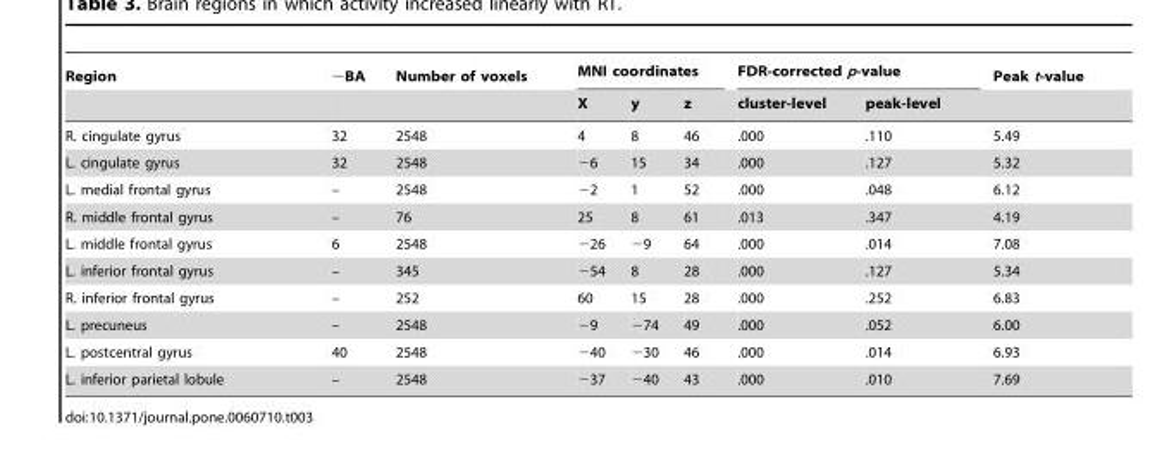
<table><thead><tr><td rowspan="2">Region</td><td rowspan="2">∼BA</td><td rowspan="2">Number of voxels</td><td colspan="3">MNI coordinates</td><td colspan="2">FDR-corrected p-value</td><td rowspan="2">Peak t-value</td></tr><tr><td>X</td><td>y</td><td>z</td><td>cluster-level</td><td>peak-level</td></tr></thead><tbody><tr><td>R. cingulate gyrus</td><td>32</td><td>2548</td><td>4</td><td>8</td><td>46</td><td>.000</td><td>.110</td><td>5.49</td></tr><tr><td>L. cingulate gyrus</td><td>32</td><td>2548</td><td>−6</td><td>15</td><td>34</td><td>.000</td><td>.127</td><td>5.32</td></tr><tr><td>L. medial frontal gyrus</td><td>–</td><td>2548</td><td>−2</td><td>1</td><td>52</td><td>.000</td><td>.048</td><td>6.12</td></tr><tr><td>R. middle frontal gyrus</td><td>–</td><td>76</td><td>25</td><td>8</td><td>61</td><td>.013</td><td>.347</td><td>4.19</td></tr><tr><td>L. middle frontal gyrus</td><td>6</td><td>2548</td><td>−26</td><td>−9</td><td>64</td><td>.000</td><td>.014</td><td>7.08</td></tr><tr><td>L. inferior frontal gyrus</td><td>–</td><td>345</td><td>−54</td><td>8</td><td>28</td><td>.000</td><td>.127</td><td>5.34</td></tr><tr><td>R. inferior frontal gyrus</td><td>–</td><td>252</td><td>60</td><td>15</td><td>28</td><td>.000</td><td>.252</td><td>6.83</td></tr><tr><td>L. precuneus</td><td>–</td><td>2548</td><td>−9</td><td>−74</td><td>49</td><td>.000</td><td>.052</td><td>6.00</td></tr><tr><td>L. postcentral gyrus</td><td>40</td><td>2548</td><td>−40</td><td>−30</td><td>46</td><td>.000</td><td>.014</td><td>6.93</td></tr><tr><td>L. inferior parietal lobule</td><td>–</td><td>2548</td><td>−37</td><td>−40</td><td>43</td><td>.000</td><td>.010</td><td>7.69</td></tr></tbody></table>